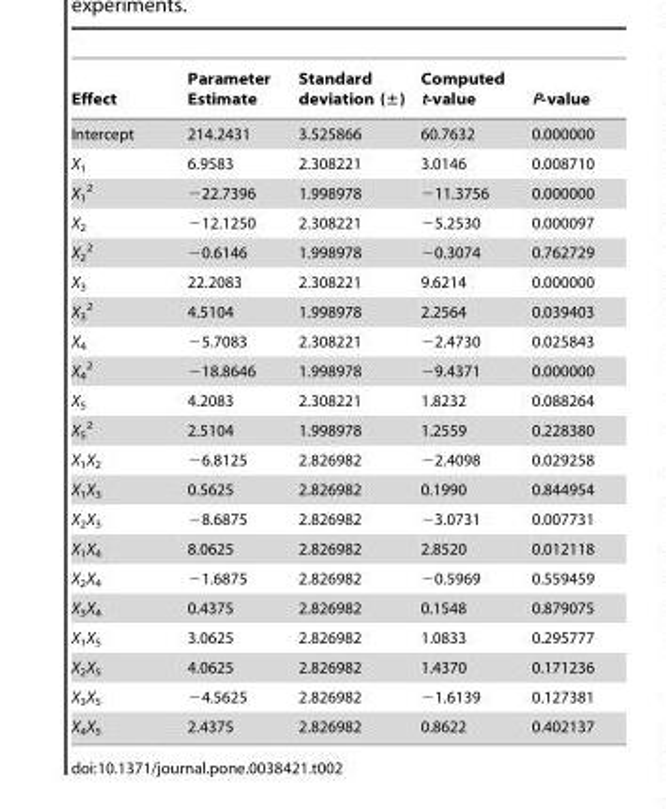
<table><thead><tr><td>Effect</td><td>Parameter Estimate</td><td>Standard deviation (±)</td><td>Computed t-value</td><td>P-value</td></tr></thead><tbody><tr><td>Intercept</td><td>214.2431</td><td>3.525866</td><td>60.7632</td><td>0.000000</td></tr><tr><td>X<sub>1</sub></td><td>6.9583</td><td>2.308221</td><td>3.0146</td><td>0.008710</td></tr><tr><td>X<sub>1</sub> <sup>2</sup></td><td>−22.7396</td><td>1.998978</td><td>−11.3756</td><td>0.000000</td></tr><tr><td>X<sub>2</sub></td><td>−12.1250</td><td>2.308221</td><td>−5.2530</td><td>0.000097</td></tr><tr><td>X<sub>2</sub> <sup>2</sup></td><td>−0.6146</td><td>1.998978</td><td>−0.3074</td><td>0.762729</td></tr><tr><td>X<sub>3</sub></td><td>22.2083</td><td>2.308221</td><td>9.6214</td><td>0.000000</td></tr><tr><td>X<sub>3</sub> <sup>2</sup></td><td>4.5104</td><td>1.998978</td><td>2.2564</td><td>0.039403</td></tr><tr><td>X<sub>4</sub></td><td>−5.7083</td><td>2.308221</td><td>−2.4730</td><td>0.025843</td></tr><tr><td>X<sub>4</sub> <sup>2</sup></td><td>−18.8646</td><td>1.998978</td><td>−9.4371</td><td>0.000000</td></tr><tr><td>X<sub>5</sub></td><td>4.2083</td><td>2.308221</td><td>1.8232</td><td>0.088264</td></tr><tr><td>X<sub>5</sub> <sup>2</sup></td><td>2.5104</td><td>1.998978</td><td>1.2559</td><td>0.228380</td></tr><tr><td>X<sub>1</sub>X<sub>2</sub></td><td>−6.8125</td><td>2.826982</td><td>−2.4098</td><td>0.029258</td></tr><tr><td>X<sub>1</sub>X<sub>3</sub></td><td>0.5625</td><td>2.826982</td><td>0.1990</td><td>0.844954</td></tr><tr><td>X<sub>2</sub>X<sub>3</sub></td><td>−8.6875</td><td>2.826982</td><td>−3.0731</td><td>0.007731</td></tr><tr><td>X<sub>1</sub>X<sub>4</sub></td><td>8.0625</td><td>2.826982</td><td>2.8520</td><td>0.012118</td></tr><tr><td>X<sub>2</sub>X<sub>4</sub></td><td>−1.6875</td><td>2.826982</td><td>−0.5969</td><td>0.559459</td></tr><tr><td>X<sub>3</sub>X<sub>4</sub></td><td>0.4375</td><td>2.826982</td><td>0.1548</td><td>0.879075</td></tr><tr><td>X<sub>1</sub>X<sub>5</sub></td><td>3.0625</td><td>2.826982</td><td>1.0833</td><td>0.295777</td></tr><tr><td>X<sub>2</sub>X<sub>5</sub></td><td>4.0625</td><td>2.826982</td><td>1.4370</td><td>0.171236</td></tr><tr><td>X<sub>3</sub>X<sub>5</sub></td><td>−4.5625</td><td>2.826982</td><td>−1.6139</td><td>0.127381</td></tr><tr><td>X<sub>4</sub>X<sub>5</sub></td><td>2.4375</td><td>2.826982</td><td>0.8622</td><td>0.402137</td></tr></tbody></table>